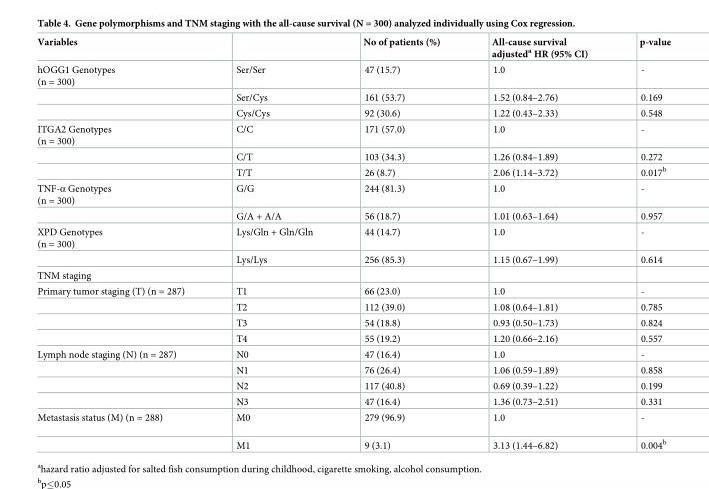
<table><thead><tr><td>Variables</td><td></td><td>No of patients (%)</td><td>All-cause survival adjusted<sup>a</sup> HR (95% CI)</td><td>p-value</td></tr></thead><tbody><tr><td rowspan="3">hOGG1 Genotypes (n = 300)</td><td>Ser/Ser</td><td>47 (15.7)</td><td>1.0</td><td>-</td></tr><tr><td>Ser/Cys</td><td>161 (53.7)</td><td>1.52 (0.84–2.76)</td><td>0.169</td></tr><tr><td>Cys/Cys</td><td>92 (30.6)</td><td>1.22 (0.43–2.33)</td><td>0.548</td></tr><tr><td rowspan="3">ITGA2 Genotypes (n = 300)</td><td>C/C</td><td>171 (57.0)</td><td>1.0</td><td>-</td></tr><tr><td>C/T</td><td>103 (34.3)</td><td>1.26 (0.84–1.89)</td><td>0.272</td></tr><tr><td>T/T</td><td>26 (8.7)</td><td>2.06 (1.14–3.72)</td><td>0.017<sup>b</sup></td></tr><tr><td rowspan="2">TNF-α Genotypes (n = 300)</td><td>G/G</td><td>244 (81.3)</td><td>1.0</td><td>-</td></tr><tr><td>G/A + A/A</td><td>56 (18.7)</td><td>1.01 (0.63–1.64)</td><td>0.957</td></tr><tr><td rowspan="2">XPD Genotypes (n = 300)</td><td>Lys/Gln + Gln/Gln</td><td>44 (14.7)</td><td>1.0</td><td>-</td></tr><tr><td>Lys/Lys</td><td>256 (85.3)</td><td>1.15 (0.67–1.99)</td><td>0.614</td></tr><tr><td colspan="5">TNM staging</td></tr><tr><td rowspan="4">Primary tumor staging (T) (n = 287)</td><td>T1</td><td>66 (23.0)</td><td>1.0</td><td>-</td></tr><tr><td>T2</td><td>112 (39.0)</td><td>1.08 (0.64–1.81)</td><td>0.785</td></tr><tr><td>T3</td><td>54 (18.8)</td><td>0.93 (0.50–1.73)</td><td>0.824</td></tr><tr><td>T4</td><td>55 (19.2)</td><td>1.20 (0.66–2.16)</td><td>0.557</td></tr><tr><td rowspan="4">Lymph node staging (N) (n = 287)</td><td>N0</td><td>47 (16.4)</td><td>1.0</td><td>-</td></tr><tr><td>N1</td><td>76 (26.4)</td><td>1.06 (0.59–1.89)</td><td>0.858</td></tr><tr><td>N2</td><td>117 (40.8)</td><td>0.69 (0.39–1.22)</td><td>0.199</td></tr><tr><td>N3</td><td>47 (16.4)</td><td>1.36 (0.73–2.51)</td><td>0.331</td></tr><tr><td rowspan="2">Metastasis status (M) (n = 288)</td><td>M0</td><td>279 (96.9)</td><td>1.0</td><td>-</td></tr><tr><td>M1</td><td>9 (3.1)</td><td>3.13 (1.44–6.82)</td><td>0.004<sup>b</sup></td></tr></tbody></table>